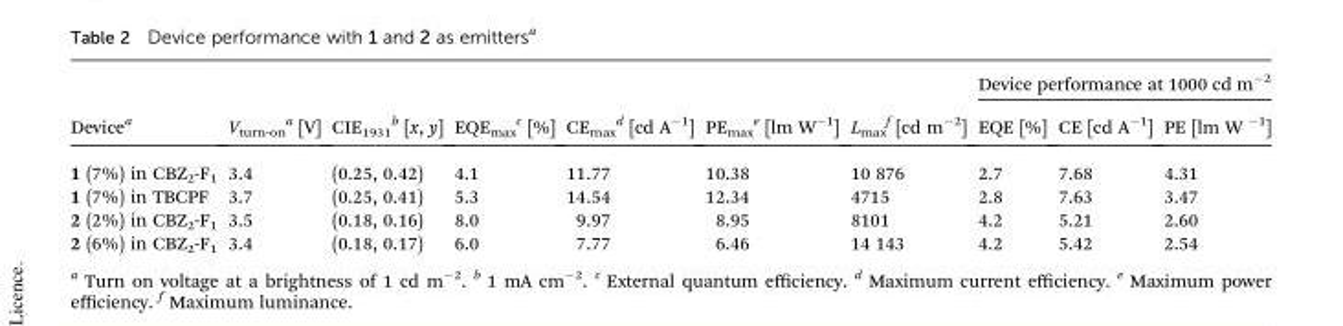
<table><thead><tr><td rowspan="2">Device<sup>a</sup></td><td rowspan="2">V<sub>turn-on</sub> <sup>a</sup> [V]</td><td rowspan="2">CIE<sub>1931</sub> <sup>b</sup> [x, y]</td><td rowspan="2">EQE<sub>max</sub> <sup>c</sup> [%]</td><td rowspan="2">CE<sub>max</sub> <sup>d</sup> [cd A<sup>–1</sup>]</td><td rowspan="2">PE<sub>max</sub> <sup>e</sup> [lm W<sup>–1</sup>]</td><td rowspan="2">L<sub>max</sub> <sup>f</sup> [cd m<sup>–2</sup>]</td><td colspan="3">Device performance at 1000 cd m<sup>–2</sup></td></tr><tr><td>EQE [%]</td><td>CE [cd A<sup>–1</sup>]</td><td>PE [lm W <sup>–1</sup>]</td></tr></thead><tbody><tr><td>1 (7%) in CBZ<sub>2</sub>-F<sub>1</sub></td><td>3.4</td><td>(0.25, 0.42)</td><td>4.1</td><td>11.77</td><td>10.38</td><td>10 876</td><td>2.7</td><td>7.68</td><td>4.31</td></tr><tr><td>1 (7%) in TBCPF</td><td>3.7</td><td>(0.25, 0.41)</td><td>5.3</td><td>14.54</td><td>12.34</td><td>4715</td><td>2.8</td><td>7.63</td><td>3.47</td></tr><tr><td>2 (2%) in CBZ<sub>2</sub>-F<sub>1</sub></td><td>3.5</td><td>(0.18, 0.16)</td><td>8.0</td><td>9.97</td><td>8.95</td><td>8101</td><td>4.2</td><td>5.21</td><td>2.60</td></tr><tr><td>2 (6%) in CBZ<sub>2</sub>-F<sub>1</sub></td><td>3.4</td><td>(0.18, 0.17)</td><td>6.0</td><td>7.77</td><td>6.46</td><td>14 143</td><td>4.2</td><td>5.42</td><td>2.54</td></tr></tbody></table>